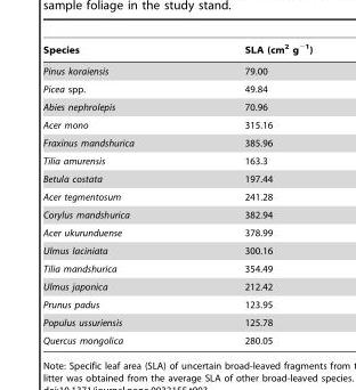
<table><thead><tr><td>Species</td><td>SLA (cm<sup>2</sup> g<sup>−1</sup>)</td></tr></thead><tbody><tr><td>Pinus koraiensis</td><td>79.00</td></tr><tr><td>Picea spp.</td><td>49.84</td></tr><tr><td>Abies nephrolepis</td><td>70.96</td></tr><tr><td>Acer mono</td><td>315.16</td></tr><tr><td>Fraxinus mandshurica</td><td>385.96</td></tr><tr><td>Tilia amurensis</td><td>163.3</td></tr><tr><td>Betula costata</td><td>197.44</td></tr><tr><td>Acer tegmentosum</td><td>241.28</td></tr><tr><td>Corylus mandshurica</td><td>382.94</td></tr><tr><td>Acer ukurunduense</td><td>378.99</td></tr><tr><td>Ulmus laciniata</td><td>300.16</td></tr><tr><td>Tilia mandshurica</td><td>354.49</td></tr><tr><td>Ulmus japonica</td><td>212.42</td></tr><tr><td>Prunus padus</td><td>123.95</td></tr><tr><td>Populus ussuriensis</td><td>125.78</td></tr><tr><td>Quercus mongolica</td><td>280.05</td></tr></tbody></table>